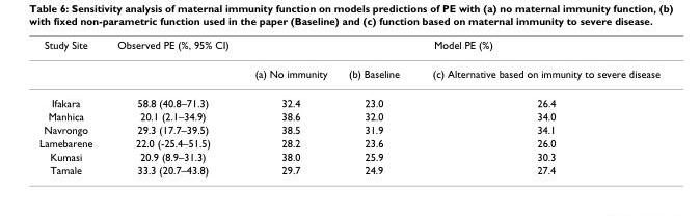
<table><thead><tr><td rowspan="2">Study Site</td><td rowspan="2">Observed PE (%, 95% CI)</td><td colspan="3">Model PE (%)</td></tr><tr><td>(a) No immunity</td><td>(b) Baseline</td><td>(c) Alternative based on immunity to severe disease</td></tr></thead><tbody><tr><td>Ifakara</td><td>58.8 (40.8–71.3)</td><td>32.4</td><td>23.0</td><td>26.4</td></tr><tr><td>Manhica</td><td>20.1 (2.1–34.9)</td><td>38.6</td><td>32.0</td><td>34.0</td></tr><tr><td>Navrongo</td><td>29.3 (17.7–39.5)</td><td>38.5</td><td>31.9</td><td>34.1</td></tr><tr><td>Lamebarene</td><td>22.0 (-25.4–51.5)</td><td>28.2</td><td>23.6</td><td>26.0</td></tr><tr><td>Kumasi</td><td>20.9 (8.9–31.3)</td><td>38.0</td><td>25.9</td><td>30.3</td></tr><tr><td>Tamale</td><td>33.3 (20.7–43.8)</td><td>29.7</td><td>24.9</td><td>27.4</td></tr></tbody></table>